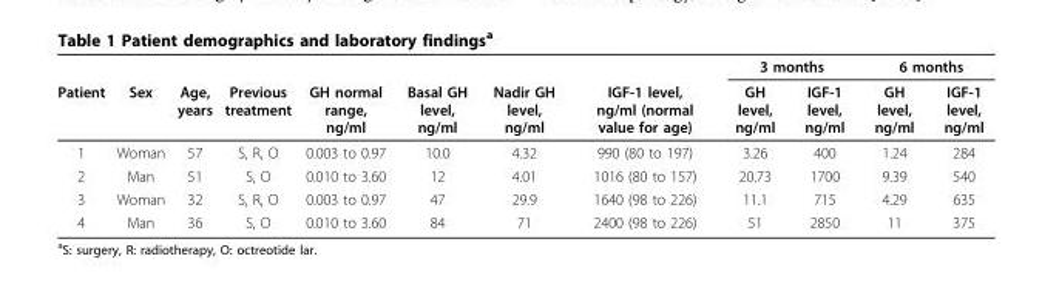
<table><thead><tr><td rowspan="2">Patient</td><td rowspan="2">Sex</td><td rowspan="2">Age, years</td><td rowspan="2">Previous treatment</td><td rowspan="2">GH normal range, ng/ml</td><td rowspan="2">Basal GH level, ng/ml</td><td rowspan="2">Nadir GH level, ng/ml</td><td rowspan="2">IGF-1 level, ng/ml (normal value for age)</td><td colspan="2">3 months</td><td colspan="2">6 months</td></tr><tr><td>GH level, ng/ml</td><td>IGF-1 level, ng/ml</td><td>GH level, ng/ml</td><td>IGF-1 level, ng/ml</td></tr></thead><tbody><tr><td>1</td><td>Woman</td><td>57</td><td>S, R, O</td><td>0.003 to 0.97</td><td>10.0</td><td>4.32</td><td>990 (80 to 197)</td><td>3.26</td><td>400</td><td>1.24</td><td>284</td></tr><tr><td>2</td><td>Man</td><td>51</td><td>S, O</td><td>0.010 to 3.60</td><td>12</td><td>4.01</td><td>1016 (80 to 157)</td><td>20.73</td><td>1700</td><td>9.39</td><td>540</td></tr><tr><td>3</td><td>Woman</td><td>32</td><td>S, R, O</td><td>0.003 to 0.97</td><td>47</td><td>29.9</td><td>1640 (98 to 226)</td><td>11.1</td><td>715</td><td>4.29</td><td>635</td></tr><tr><td>4</td><td>Man</td><td>36</td><td>S, O</td><td>0.010 to 3.60</td><td>84</td><td>71</td><td>2400 (98 to 226)</td><td>51</td><td>2850</td><td>11</td><td>375</td></tr></tbody></table>